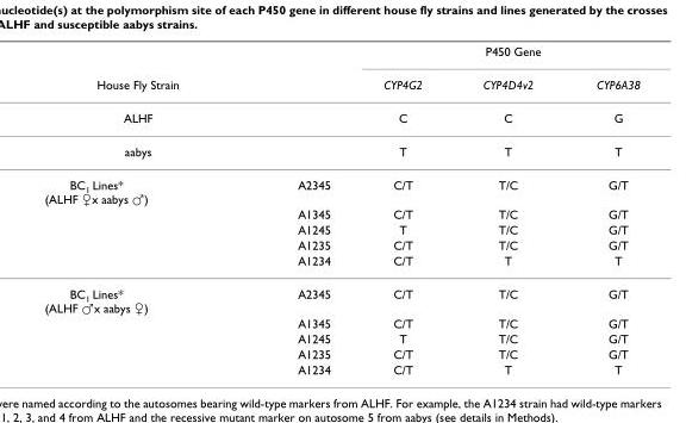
<table><thead><tr><td></td><td></td><td colspan="3">P450 Gene</td></tr><tr><td colspan="2">House Fly Strain</td><td>CYP4G2</td><td>CYP4D4v2</td><td>CYP6A38</td></tr></thead><tbody><tr><td colspan="2">ALHF</td><td>C</td><td>C</td><td>G</td></tr><tr><td colspan="2">aabys</td><td>T</td><td>T</td><td>T</td></tr><tr><td rowspan="5">BC<sub>1</sub> Lines* (ALHF ♀x aabys ♂)</td><td>A2345</td><td>C/T</td><td>T/C</td><td>G/T</td></tr><tr><td>A1345</td><td>C/T</td><td>T/C</td><td>G/T</td></tr><tr><td>A1245</td><td>T</td><td>T/C</td><td>G/T</td></tr><tr><td>A1235</td><td>C/T</td><td>T/C</td><td>G/T</td></tr><tr><td>A1234</td><td>C/T</td><td>T</td><td>T</td></tr><tr><td rowspan="5">BC<sub>1</sub> Lines* (ALHF ♂x aabys ♀)</td><td>A2345</td><td>C/T</td><td>T/C</td><td>G/T</td></tr><tr><td>A1345</td><td>C/T</td><td>T/C</td><td>G/T</td></tr><tr><td>A1245</td><td>T</td><td>T/C</td><td>G/T</td></tr><tr><td>A1235</td><td>C/T</td><td>T/C</td><td>G/T</td></tr><tr><td>A1234</td><td>C/T</td><td>T</td><td>T</td></tr></tbody></table>